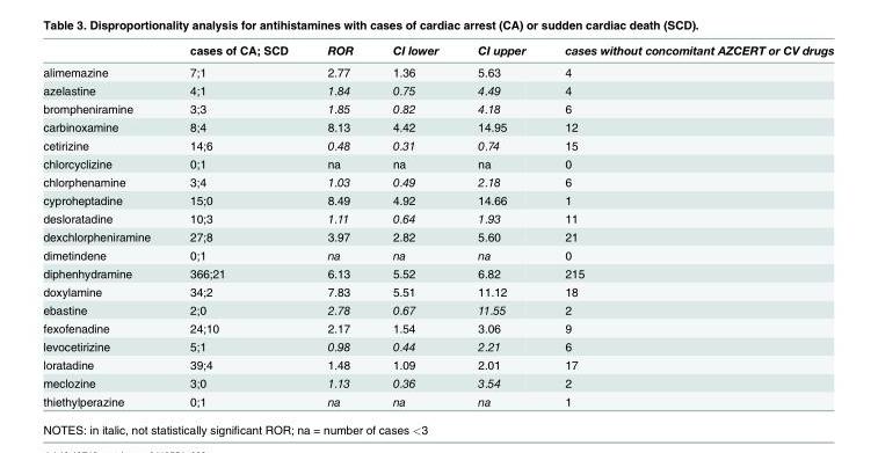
<table><thead><tr><td></td><td>cases of CA; SCD</td><td>ROR</td><td>CI lower</td><td>CI upper</td><td>cases without concomitant AZCERT or CV drugs</td></tr></thead><tbody><tr><td>alimemazine</td><td>7;1</td><td>2.77</td><td>1.36</td><td>5.63</td><td>4</td></tr><tr><td>azelastine</td><td>4;1</td><td>1.84</td><td>0.75</td><td>4.49</td><td>4</td></tr><tr><td>brompheniramine</td><td>3;3</td><td>1.85</td><td>0.82</td><td>4.18</td><td>6</td></tr><tr><td>carbinoxamine</td><td>8;4</td><td>8.13</td><td>4.42</td><td>14.95</td><td>12</td></tr><tr><td>cetirizine</td><td>14;6</td><td>0.48</td><td>0.31</td><td>0.74</td><td>15</td></tr><tr><td>chlorcyclizine</td><td>0;1</td><td>na</td><td>na</td><td>na</td><td>0</td></tr><tr><td>chlorphenamine</td><td>3;4</td><td>1.03</td><td>0.49</td><td>2.18</td><td>6</td></tr><tr><td>cyproheptadine</td><td>15;0</td><td>8.49</td><td>4.92</td><td>14.66</td><td>1</td></tr><tr><td>desloratadine</td><td>10;3</td><td>1.11</td><td>0.64</td><td>1.93</td><td>11</td></tr><tr><td>dexchlorpheniramine</td><td>27;8</td><td>3.97</td><td>2.82</td><td>5.60</td><td>21</td></tr><tr><td>dimetindene</td><td>0;1</td><td>na</td><td>na</td><td>na</td><td>0</td></tr><tr><td>diphenhydramine</td><td>366;21</td><td>6.13</td><td>5.52</td><td>6.82</td><td>215</td></tr><tr><td>doxylamine</td><td>34;2</td><td>7.83</td><td>5.51</td><td>11.12</td><td>18</td></tr><tr><td>ebastine</td><td>2;0</td><td>2.78</td><td>0.67</td><td>11.55</td><td>2</td></tr><tr><td>fexofenadine</td><td>24;10</td><td>2.17</td><td>1.54</td><td>3.06</td><td>9</td></tr><tr><td>levocetirizine</td><td>5;1</td><td>0.98</td><td>0.44</td><td>2.21</td><td>6</td></tr><tr><td>loratadine</td><td>39;4</td><td>1.48</td><td>1.09</td><td>2.01</td><td>17</td></tr><tr><td>meclozine</td><td>3;0</td><td>1.13</td><td>0.36</td><td>3.54</td><td>2</td></tr><tr><td>thiethylperazine</td><td>0;1</td><td>na</td><td>na</td><td>na</td><td>1</td></tr></tbody></table>